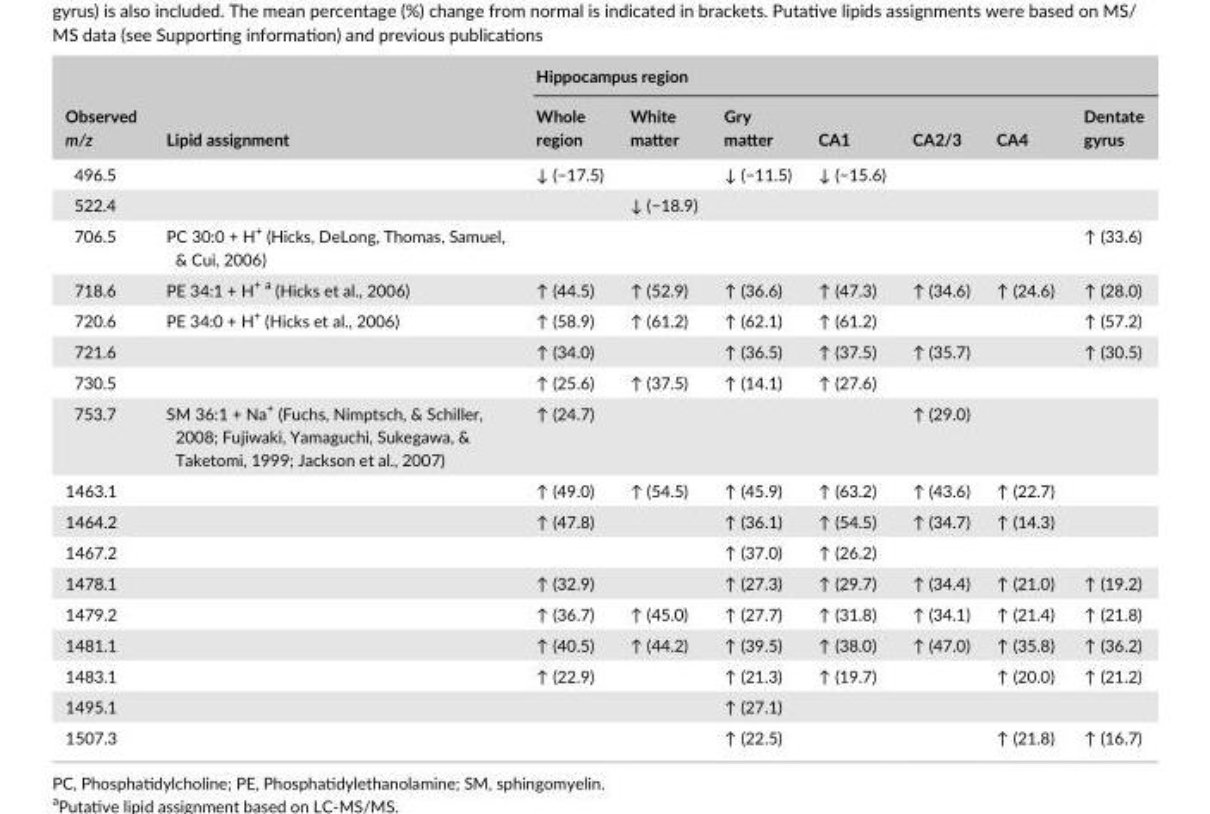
<table><thead><tr><td rowspan="2">Observed m/z</td><td rowspan="2">Lipid assignment</td><td colspan="7">Hippocampus region</td></tr><tr><td>Whole region</td><td>White matter</td><td>Gry matter</td><td>CA1</td><td>CA2/3</td><td>CA4</td><td>Dentate gyrus</td></tr></thead><tbody><tr><td>496.5</td><td></td><td>↓ (−17.5)</td><td></td><td>↓ (−11.5)</td><td>↓ (−15.6)</td><td></td><td></td><td></td></tr><tr><td>522.4</td><td></td><td></td><td>↓ (−18.9)</td><td></td><td></td><td></td><td></td><td></td></tr><tr><td>706.5</td><td>PC 30:0 + H<sup>+</sup> (Hicks, DeLong, Thomas, Samuel, &amp; Cui, 2006)</td><td></td><td></td><td></td><td></td><td></td><td></td><td>↑ (33.6)</td></tr><tr><td>718.6</td><td>PE 34:1 + H<sup>+</sup> a (Hicks et al., 2006)</td><td>↑ (44.5)</td><td>↑ (52.9)</td><td>↑ (36.6)</td><td>↑ (47.3)</td><td>↑ (34.6)</td><td>↑ (24.6)</td><td>↑ (28.0)</td></tr><tr><td>720.6</td><td>PE 34:0 + H<sup>+</sup> (Hicks et al., 2006)</td><td>↑ (58.9)</td><td>↑ (61.2)</td><td>↑ (62.1)</td><td>↑ (61.2)</td><td></td><td></td><td>↑ (57.2)</td></tr><tr><td>721.6</td><td></td><td>↑ (34.0)</td><td></td><td>↑ (36.5)</td><td>↑ (37.5)</td><td>↑ (35.7)</td><td></td><td>↑ (30.5)</td></tr><tr><td>730.5</td><td></td><td>↑ (25.6)</td><td>↑ (37.5)</td><td>↑ (14.1)</td><td>↑ (27.6)</td><td></td><td></td><td></td></tr><tr><td>753.7</td><td>SM 36:1 + Na<sup>+</sup> (Fuchs, Nimptsch, &amp; Schiller, 2008; Fujiwaki, Yamaguchi, Sukegawa, &amp; Taketomi, 1999; Jackson et al., 2007)</td><td>↑ (24.7)</td><td></td><td></td><td></td><td>↑ (29.0)</td><td></td><td></td></tr><tr><td>1463.1</td><td></td><td>↑ (49.0)</td><td>↑ (54.5)</td><td>↑ (45.9)</td><td>↑ (63.2)</td><td>↑ (43.6)</td><td>↑ (22.7)</td><td></td></tr><tr><td>1464.2</td><td></td><td>↑ (47.8)</td><td></td><td>↑ (36.1)</td><td>↑ (54.5)</td><td>↑ (34.7)</td><td>↑ (14.3)</td><td></td></tr><tr><td>1467.2</td><td></td><td></td><td></td><td>↑ (37.0)</td><td>↑ (26.2)</td><td></td><td></td><td></td></tr><tr><td>1478.1</td><td></td><td>↑ (32.9)</td><td></td><td>↑ (27.3)</td><td>↑ (29.7)</td><td>↑ (34.4)</td><td>↑ (21.0)</td><td>↑ (19.2)</td></tr><tr><td>1479.2</td><td></td><td>↑ (36.7)</td><td>↑ (45.0)</td><td>↑ (27.7)</td><td>↑ (31.8)</td><td>↑ (34.1)</td><td>↑ (21.4)</td><td>↑ (21.8)</td></tr><tr><td>1481.1</td><td></td><td>↑ (40.5)</td><td>↑ (44.2)</td><td>↑ (39.5)</td><td>↑ (38.0)</td><td>↑ (47.0)</td><td>↑ (35.8)</td><td>↑ (36.2)</td></tr><tr><td>1483.1</td><td></td><td>↑ (22.9)</td><td></td><td>↑ (21.3)</td><td>↑ (19.7)</td><td></td><td>↑ (20.0)</td><td>↑ (21.2)</td></tr><tr><td>1495.1</td><td></td><td></td><td></td><td>↑ (27.1)</td><td></td><td></td><td></td><td></td></tr><tr><td>1507.3</td><td></td><td></td><td></td><td>↑ (22.5)</td><td></td><td></td><td>↑ (21.8)</td><td>↑ (16.7)</td></tr></tbody></table>